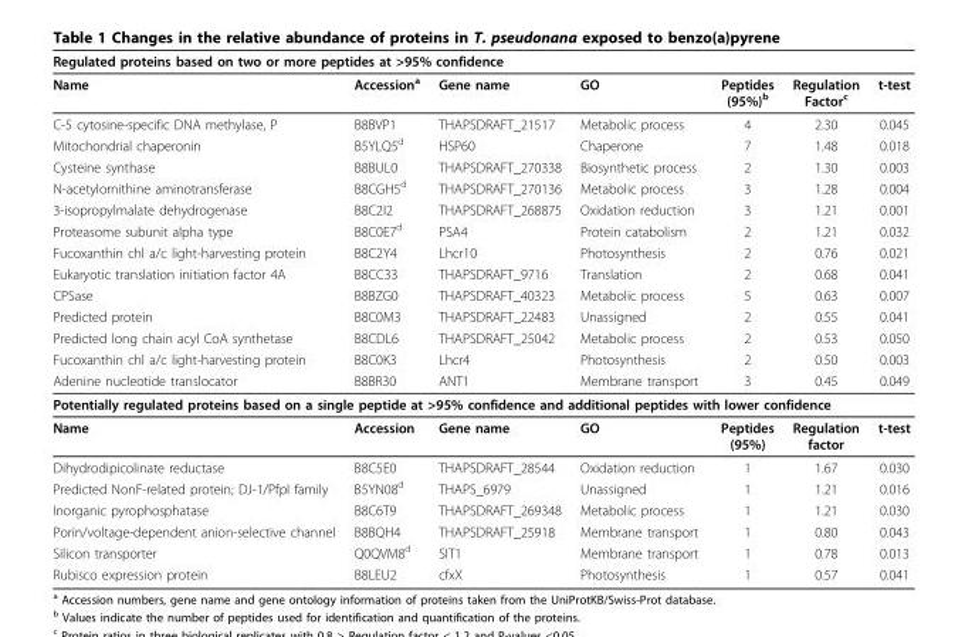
<table><thead><tr><td colspan="7">Regulated proteins based on two or more peptides at &gt;95% confidence</td></tr><tr><td>Name</td><td>Accession<sup>a</sup></td><td>Gene name</td><td>GO</td><td>Peptides (95%)<sup>b</sup></td><td>Regulation Factor<sup>c</sup></td><td>t-test</td></tr></thead><tbody><tr><td>C-5 cytosine-specific DNA methylase, P</td><td>B8BVP1</td><td>THAPSDRAFT_21517</td><td>Metabolic process</td><td>4</td><td>2.30</td><td>0.045</td></tr><tr><td>Mitochondrial chaperonin</td><td>B5YLQ5<sup>d</sup></td><td>HSP60</td><td>Chaperone</td><td>7</td><td>1.48</td><td>0.018</td></tr><tr><td>Cysteine synthase</td><td>B8BUL0</td><td>THAPSDRAFT_270338</td><td>Biosynthetic process</td><td>2</td><td>1.30</td><td>0.003</td></tr><tr><td>N-acetylornithine aminotransferase</td><td>B8CGH5<sup>d</sup></td><td>THAPSDRAFT_270136</td><td>Metabolic process</td><td>3</td><td>1.28</td><td>0.004</td></tr><tr><td>3-isopropylmalate dehydrogenase</td><td>B8C2I2</td><td>THAPSDRAFT_268875</td><td>Oxidation reduction</td><td>3</td><td>1.21</td><td>0.001</td></tr><tr><td>Proteasome subunit alpha type</td><td>B8C0E7<sup>d</sup></td><td>PSA4</td><td>Protein catabolism</td><td>2</td><td>1.21</td><td>0.032</td></tr><tr><td>Fucoxanthin chl a/c light-harvesting protein</td><td>B8C2Y4</td><td>Lhcr10</td><td>Photosynthesis</td><td>2</td><td>0.76</td><td>0.021</td></tr><tr><td>Eukaryotic translation initiation factor 4A</td><td>B8CC33</td><td>THAPSDRAFT_9716</td><td>Translation</td><td>2</td><td>0.68</td><td>0.041</td></tr><tr><td>CPSase</td><td>B8BZG0</td><td>THAPSDRAFT_40323</td><td>Metabolic process</td><td>5</td><td>0.63</td><td>0.007</td></tr><tr><td>Predicted protein</td><td>B8C0M3</td><td>THAPSDRAFT_22483</td><td>Unassigned</td><td>2</td><td>0.55</td><td>0.041</td></tr><tr><td>Predicted long chain acyl CoA synthetase</td><td>B8CDL6</td><td>THAPSDRAFT_25042</td><td>Metabolic process</td><td>2</td><td>0.53</td><td>0.050</td></tr><tr><td>Fucoxanthin chl a/c light-harvesting protein</td><td>B8C0K3</td><td>Lhcr4</td><td>Photosynthesis</td><td>2</td><td>0.50</td><td>0.003</td></tr><tr><td>Adenine nucleotide translocator</td><td>B8BR30</td><td>ANT1</td><td>Membrane transport</td><td>3</td><td>0.45</td><td>0.049</td></tr><tr><td colspan="7">Potentially regulated proteins based on a single peptide at &gt;95% confidence and additional peptides with lower confidence</td></tr><tr><td>Name</td><td>Accession</td><td>Gene name</td><td>GO</td><td>Peptides (95%)</td><td>Regulation factor</td><td>t-test</td></tr><tr><td>Dihydrodipicolinate reductase</td><td>B8C5E0</td><td>THAPSDRAFT_28544</td><td>Oxidation reduction</td><td>1</td><td>1.67</td><td>0.030</td></tr><tr><td>Predicted NonF-related protein; DJ-1/PfpI family</td><td>B5YN08<sup>d</sup></td><td>THAPS_6979</td><td>Unassigned</td><td>1</td><td>1.21</td><td>0.016</td></tr><tr><td>Inorganic pyrophosphatase</td><td>B8C6T9</td><td>THAPSDRAFT_269348</td><td>Metabolic process</td><td>1</td><td>1.21</td><td>0.030</td></tr><tr><td>Porin/voltage-dependent anion-selective channel</td><td>B8BQH4</td><td>THAPSDRAFT_25918</td><td>Membrane transport</td><td>1</td><td>0.80</td><td>0.043</td></tr><tr><td>Silicon transporter</td><td>Q0QVM8<sup>d</sup></td><td>SIT1</td><td>Membrane transport</td><td>1</td><td>0.78</td><td>0.013</td></tr><tr><td>Rubisco expression protein</td><td>B8LEU2</td><td>cfxX</td><td>Photosynthesis</td><td>1</td><td>0.57</td><td>0.041</td></tr></tbody></table>